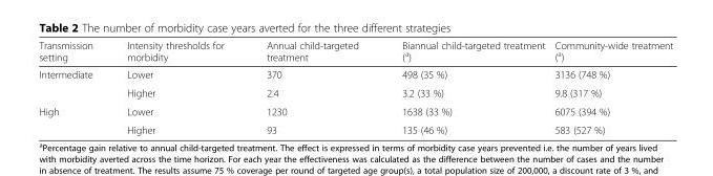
<table><thead><tr><td>Transmission setting</td><td>Intensity thresholds for morbidity</td><td>Annual child-targeted treatment</td><td>Biannual child-targeted treatment (<sup>a</sup>)</td><td>Community-wide treatment (<sup>a</sup>)</td></tr></thead><tbody><tr><td rowspan="2">Intermediate</td><td>Lower</td><td>370</td><td>498 (35 %)</td><td>3136 (748 %)</td></tr><tr><td>Higher</td><td>2.4</td><td>3.2 (33 %)</td><td>9.8 (317 %)</td></tr><tr><td rowspan="2">High</td><td>Lower</td><td>1230</td><td>1638 (33 %)</td><td>6075 (394 %)</td></tr><tr><td>Higher</td><td>93</td><td>135 (46 %)</td><td>583 (527 %)</td></tr></tbody></table>